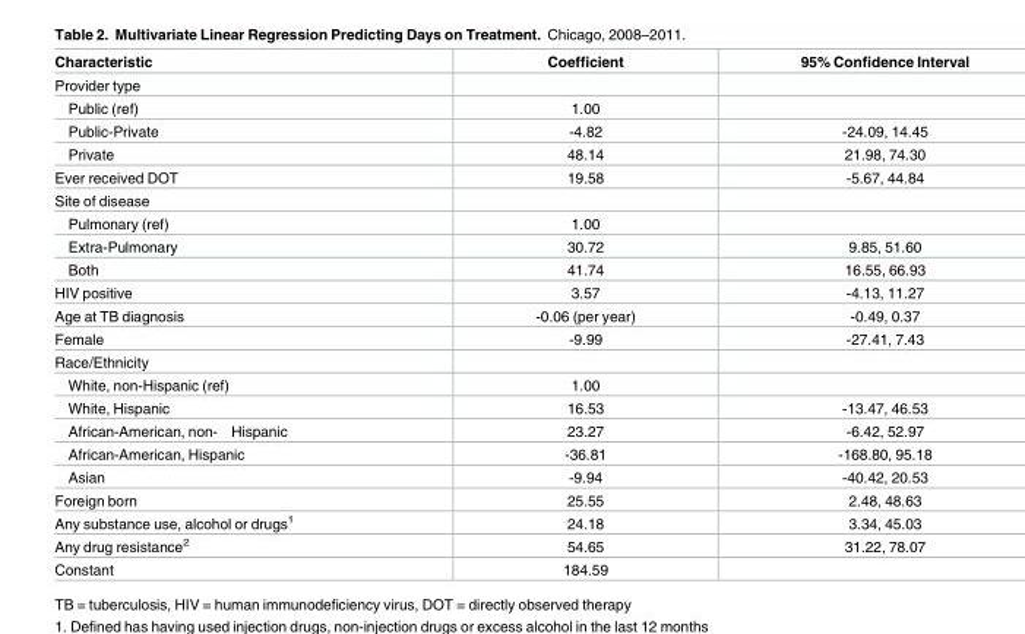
<table><thead><tr><td>Characteristic</td><td>Coefficient</td><td>95% Confidence Interval</td></tr></thead><tbody><tr><td colspan="3">Provider type</td></tr><tr><td>Public (ref)</td><td>1.00</td><td></td></tr><tr><td>Public-Private</td><td>-4.82</td><td>-24.09, 14.45</td></tr><tr><td>Private</td><td>48.14</td><td>21.98, 74.30</td></tr><tr><td>Ever received DOT</td><td>19.58</td><td>-5.67, 44.84</td></tr><tr><td colspan="3">Site of disease</td></tr><tr><td>Pulmonary (ref)</td><td>1.00</td><td></td></tr><tr><td>Extra-Pulmonary</td><td>30.72</td><td>9.85, 51.60</td></tr><tr><td>Both</td><td>41.74</td><td>16.55, 66.93</td></tr><tr><td>HIV positive</td><td>3.57</td><td>-4.13, 11.27</td></tr><tr><td>Age at TB diagnosis</td><td>-0.06 (per year)</td><td>-0.49, 0.37</td></tr><tr><td>Female</td><td>-9.99</td><td>-27.41, 7.43</td></tr><tr><td colspan="3">Race/Ethnicity</td></tr><tr><td>White, non-Hispanic (ref)</td><td>1.00</td><td></td></tr><tr><td>White, Hispanic</td><td>16.53</td><td>-13.47, 46.53</td></tr><tr><td>African-American, non- Hispanic</td><td>23.27</td><td>-6.42, 52.97</td></tr><tr><td>African-American, Hispanic</td><td>-36.81</td><td>-168.80, 95.18</td></tr><tr><td>Asian</td><td>-9.94</td><td>-40.42, 20.53</td></tr><tr><td>Foreign born</td><td>25.55</td><td>2.48, 48.63</td></tr><tr><td>Any substance use, alcohol or drugs<sup>1</sup></td><td>24.18</td><td>3.34, 45.03</td></tr><tr><td>Any drug resistance<sup>2</sup></td><td>54.65</td><td>31.22, 78.07</td></tr><tr><td>Constant</td><td>184.59</td><td></td></tr></tbody></table>